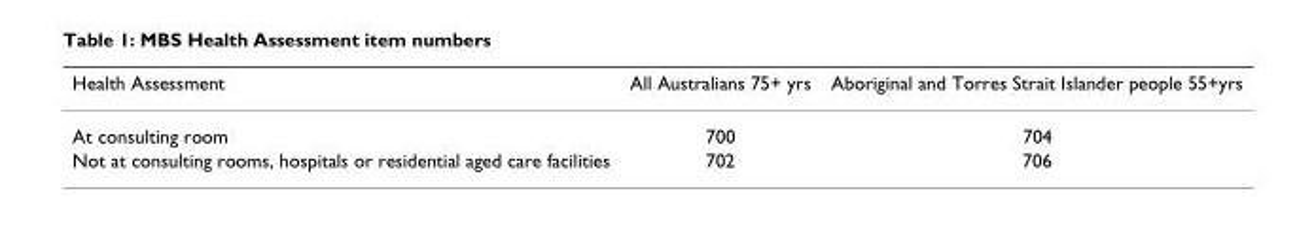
<table><thead><tr><td>Health Assessment</td><td>All Australians 75+ yrs</td><td>Aboriginal and Torres Strait Islander people 55+yrs</td></tr></thead><tbody><tr><td>At consulting room</td><td>700</td><td>704</td></tr><tr><td>Not at consulting rooms, hospitals or residential aged care facilities</td><td>702</td><td>706</td></tr></tbody></table>